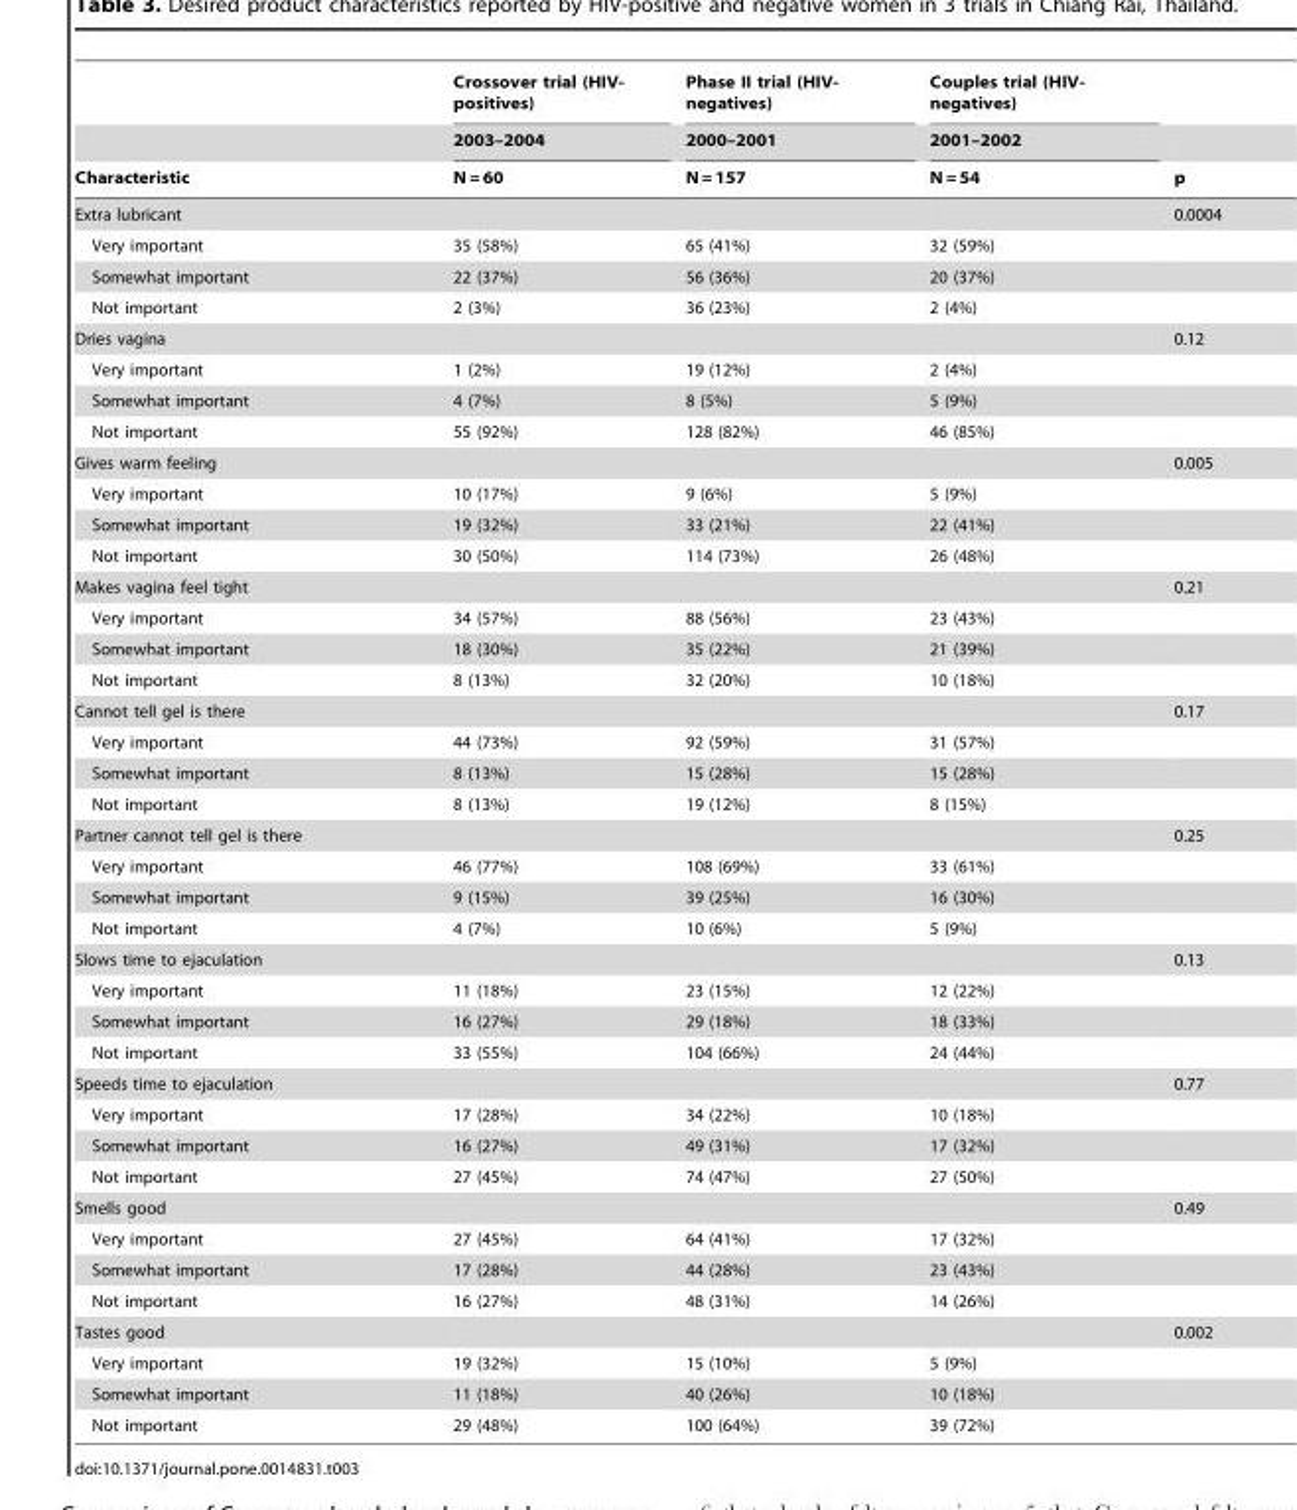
<table><thead><tr><td rowspan="3">Characteristic</td><td rowspan="3">Crossover trial (HIV- positives) 2003–2004 N = 60</td><td rowspan="3">Phase II trial (HIV- negatives) 2000–2001 N = 157</td><td rowspan="3">Couples trial (HIV- negatives) 2001–2002 N = 54</td><td rowspan="3">p</td></tr><tr></tr><tr></tr></thead><tbody><tr><td>Extra lubricant</td><td></td><td></td><td></td><td>0.0004</td></tr><tr><td>Very important</td><td>35 (58%)</td><td>65 (41%)</td><td>32 (59%)</td><td></td></tr><tr><td>Somewhat important</td><td>22 (37%)</td><td>56 (36%)</td><td>20 (37%)</td><td></td></tr><tr><td>Not important</td><td>2 (3%)</td><td>36 (23%)</td><td>2 (4%)</td><td></td></tr><tr><td>Dries vagina</td><td></td><td></td><td></td><td>0.12</td></tr><tr><td>Very important</td><td>1 (2%)</td><td>19 (12%)</td><td>2 (4%)</td><td></td></tr><tr><td>Somewhat important</td><td>4 (7%)</td><td>8 (5%)</td><td>5 (9%)</td><td></td></tr><tr><td>Not important</td><td>55 (92%)</td><td>128 (82%)</td><td>46 (85%)</td><td></td></tr><tr><td>Gives warm feeling</td><td></td><td></td><td></td><td>0.005</td></tr><tr><td>Very important</td><td>10 (17%)</td><td>9 (6%)</td><td>5 (9%)</td><td></td></tr><tr><td>Somewhat important</td><td>19 (32%)</td><td>33 (21%)</td><td>22 (41%)</td><td></td></tr><tr><td>Not important</td><td>30 (50%)</td><td>114 (73%)</td><td>26 (48%)</td><td></td></tr><tr><td>Makes vagina feel tight</td><td></td><td></td><td></td><td>0.21</td></tr><tr><td>Very important</td><td>34 (57%)</td><td>88 (56%)</td><td>23 (43%)</td><td></td></tr><tr><td>Somewhat important</td><td>18 (30%)</td><td>35 (22%)</td><td>21 (39%)</td><td></td></tr><tr><td>Not important</td><td>8 (13%)</td><td>32 (20%)</td><td>10 (18%)</td><td></td></tr><tr><td>Cannot tell gel is there</td><td></td><td></td><td></td><td>0.17</td></tr><tr><td>Very important</td><td>44 (73%)</td><td>92 (59%)</td><td>31 (57%)</td><td></td></tr><tr><td>Somewhat important</td><td>8 (13%)</td><td>15 (28%)</td><td>15 (28%)</td><td></td></tr><tr><td>Not important</td><td>8 (13%)</td><td>19 (12%)</td><td>8 (15%)</td><td></td></tr><tr><td>Partner cannot tell gel is there</td><td></td><td></td><td></td><td>0.25</td></tr><tr><td>Very important</td><td>46 (77%)</td><td>108 (69%)</td><td>33 (61%)</td><td></td></tr><tr><td>Somewhat important</td><td>9 (15%)</td><td>39 (25%)</td><td>16 (30%)</td><td></td></tr><tr><td>Not important</td><td>4 (7%)</td><td>10 (6%)</td><td>5 (9%)</td><td></td></tr><tr><td>Slows time to ejaculation</td><td></td><td></td><td></td><td>0.13</td></tr><tr><td>Very important</td><td>11 (18%)</td><td>23 (15%)</td><td>12 (22%)</td><td></td></tr><tr><td>Somewhat important</td><td>16 (27%)</td><td>29 (18%)</td><td>18 (33%)</td><td></td></tr><tr><td>Not important</td><td>33 (55%)</td><td>104 (66%)</td><td>24 (44%)</td><td></td></tr><tr><td>Speeds time to ejaculation</td><td></td><td></td><td></td><td>0.77</td></tr><tr><td>Very important</td><td>17 (28%)</td><td>34 (22%)</td><td>10 (18%)</td><td></td></tr><tr><td>Somewhat important</td><td>16 (27%)</td><td>49 (31%)</td><td>17 (32%)</td><td></td></tr><tr><td>Not important</td><td>27 (45%)</td><td>74 (47%)</td><td>27 (50%)</td><td></td></tr><tr><td>Smells good</td><td></td><td></td><td></td><td>0.49</td></tr><tr><td>Very important</td><td>27 (45%)</td><td>64 (41%)</td><td>17 (32%)</td><td></td></tr><tr><td>Somewhat important</td><td>17 (28%)</td><td>44 (28%)</td><td>23 (43%)</td><td></td></tr><tr><td>Not important</td><td>16 (27%)</td><td>48 (31%)</td><td>14 (26%)</td><td></td></tr><tr><td>Tastes good</td><td></td><td></td><td></td><td>0.002</td></tr><tr><td>Very important</td><td>19 (32%)</td><td>15 (10%)</td><td>5 (9%)</td><td></td></tr><tr><td>Somewhat important</td><td>11 (18%)</td><td>40 (26%)</td><td>10 (18%)</td><td></td></tr><tr><td>Not important</td><td>29 (48%)</td><td>100 (64%)</td><td>39 (72%)</td><td></td></tr></tbody></table>